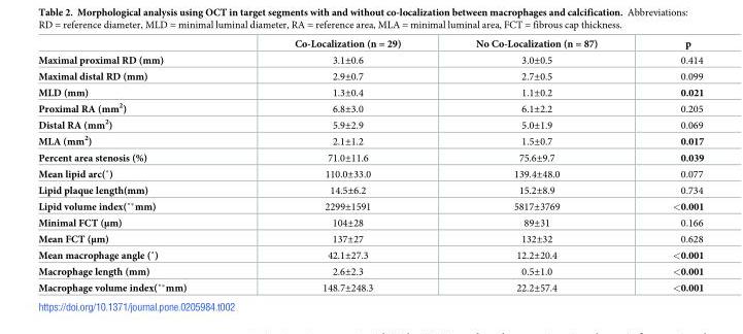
<table><thead><tr><td></td><td>Co-Localization (n = 29)</td><td>No Co-Localization (n = 87)</td><td>p</td></tr></thead><tbody><tr><td>Maximal proximal RD (mm)</td><td>3.1±0.6</td><td>3.0±0.5</td><td>0.414</td></tr><tr><td>Maximal distal RD (mm)</td><td>2.9±0.7</td><td>2.7±0.5</td><td>0.099</td></tr><tr><td>MLD (mm)</td><td>1.3±0.4</td><td>1.1±0.2</td><td>0.021</td></tr><tr><td>Proximal RA (mm<sup>2</sup>)</td><td>6.8±3.0</td><td>6.1±2.2</td><td>0.205</td></tr><tr><td>Distal RA (mm<sup>2</sup>)</td><td>5.9±2.9</td><td>5.0±1.9</td><td>0.069</td></tr><tr><td>MLA (mm<sup>2</sup>)</td><td>2.1±1.2</td><td>1.5±0.7</td><td>0.017</td></tr><tr><td>Percent area stenosis (%)</td><td>71.0±11.6</td><td>75.6±9.7</td><td>0.039</td></tr><tr><td>Mean lipid arc(˚)</td><td>110.0±33.0</td><td>139.4±48.0</td><td>0.077</td></tr><tr><td>Lipid plaque length(mm)</td><td>14.5±6.2</td><td>15.2±8.9</td><td>0.734</td></tr><tr><td>Lipid volume index(˚*mm)</td><td>2299±1591</td><td>5817±3769</td><td>&lt;0.001</td></tr><tr><td>Minimal FCT (μm)</td><td>104±28</td><td>89±31</td><td>0.166</td></tr><tr><td>Mean FCT (μm)</td><td>137±27</td><td>132±32</td><td>0.628</td></tr><tr><td>Mean macrophage angle (˚)</td><td>42.1±27.3</td><td>12.2±20.4</td><td>&lt;0.001</td></tr><tr><td>Macrophage length (mm)</td><td>2.6±2.3</td><td>0.5±1.0</td><td>&lt;0.001</td></tr><tr><td>Macrophage volume index(˚*mm)</td><td>148.7±248.3</td><td>22.2±57.4</td><td>&lt;0.001</td></tr></tbody></table>